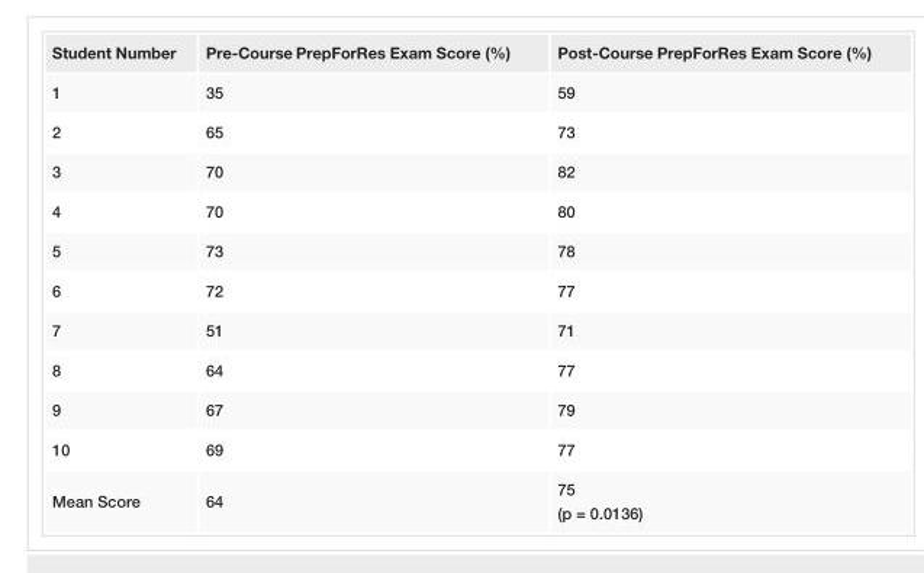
<table><tbody><tr><td>Student Number</td><td>Pre-Course PrepForRes Exam Score (%)</td><td>Post-Course PrepForRes Exam Score (%)</td></tr><tr><td>1</td><td>35</td><td>59</td></tr><tr><td>2</td><td>65</td><td>73</td></tr><tr><td>3</td><td>70</td><td>82</td></tr><tr><td>4</td><td>70</td><td>80</td></tr><tr><td>5</td><td>73</td><td>78</td></tr><tr><td>6</td><td>72</td><td>77</td></tr><tr><td>7</td><td>51</td><td>71</td></tr><tr><td>8</td><td>64</td><td>77</td></tr><tr><td>9</td><td>67</td><td>79</td></tr><tr><td>10</td><td>69</td><td>77</td></tr><tr><td>Mean Score</td><td>64</td><td>75 (p = 0.0136)</td></tr></tbody></table>